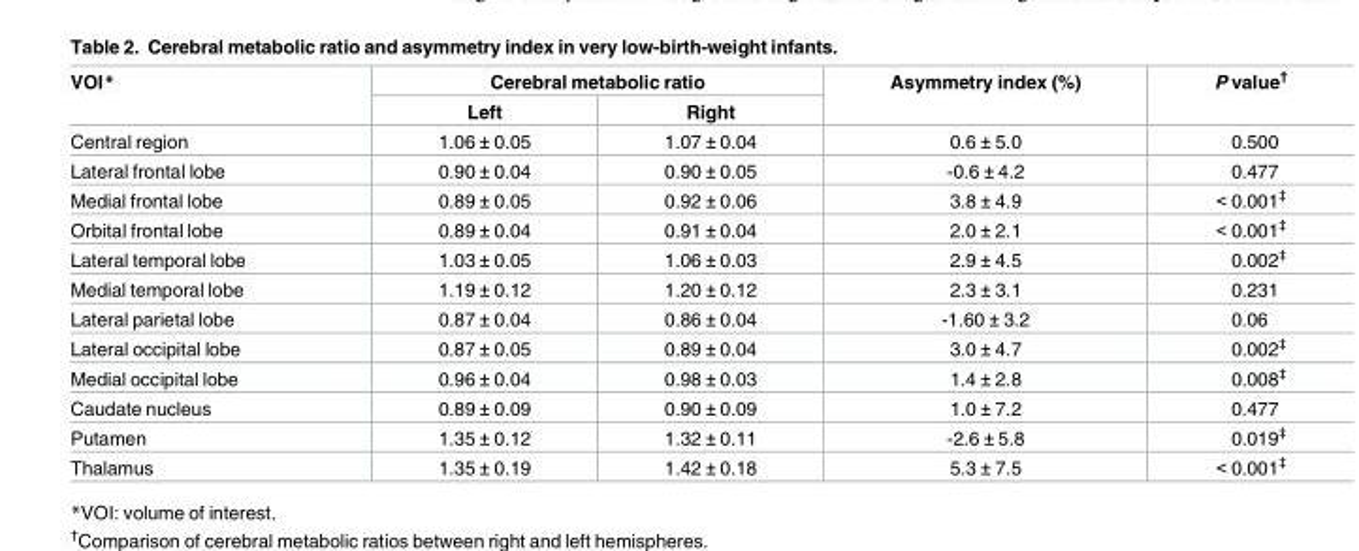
<table><thead><tr><td rowspan="2">VOI*</td><td colspan="2">Cerebral metabolic ratio</td><td rowspan="2">Asymmetry index (%)</td><td rowspan="2">P value<sup>†</sup></td></tr><tr><td>Left</td><td>Right</td></tr></thead><tbody><tr><td>Central region</td><td>1.06 ± 0.05</td><td>1.07 ± 0.04</td><td>0.6 ± 5.0</td><td>0.500</td></tr><tr><td>Lateral frontal lobe</td><td>0.90 ± 0.04</td><td>0.90 ± 0.05</td><td>-0.6 ± 4.2</td><td>0.477</td></tr><tr><td>Medial frontal lobe</td><td>0.89 ± 0.05</td><td>0.92 ± 0.06</td><td>3.8 ± 4.9</td><td>&lt; 0.001<sup>‡</sup></td></tr><tr><td>Orbital frontal lobe</td><td>0.89 ± 0.04</td><td>0.91 ± 0.04</td><td>2.0 ± 2.1</td><td>&lt; 0.001<sup>‡</sup></td></tr><tr><td>Lateral temporal lobe</td><td>1.03 ± 0.05</td><td>1.06 ± 0.03</td><td>2.9 ± 4.5</td><td>0.002<sup>‡</sup></td></tr><tr><td>Medial temporal lobe</td><td>1.19 ± 0.12</td><td>1.20 ± 0.12</td><td>2.3 ± 3.1</td><td>0.231</td></tr><tr><td>Lateral parietal lobe</td><td>0.87 ± 0.04</td><td>0.86 ± 0.04</td><td>-1.60 ± 3.2</td><td>0.06</td></tr><tr><td>Lateral occipital lobe</td><td>0.87 ± 0.05</td><td>0.89 ± 0.04</td><td>3.0 ± 4.7</td><td>0.002<sup>‡</sup></td></tr><tr><td>Medial occipital lobe</td><td>0.96 ± 0.04</td><td>0.98 ± 0.03</td><td>1.4 ± 2.8</td><td>0.008<sup>‡</sup></td></tr><tr><td>Caudate nucleus</td><td>0.89 ± 0.09</td><td>0.90 ± 0.09</td><td>1.0 ± 7.2</td><td>0.477</td></tr><tr><td>Putamen</td><td>1.35 ± 0.12</td><td>1.32 ± 0.11</td><td>-2.6 ± 5.8</td><td>0.019<sup>‡</sup></td></tr><tr><td>Thalamus</td><td>1.35 ± 0.19</td><td>1.42 ± 0.18</td><td>5.3 ± 7.5</td><td>&lt; 0.001<sup>‡</sup></td></tr></tbody></table>